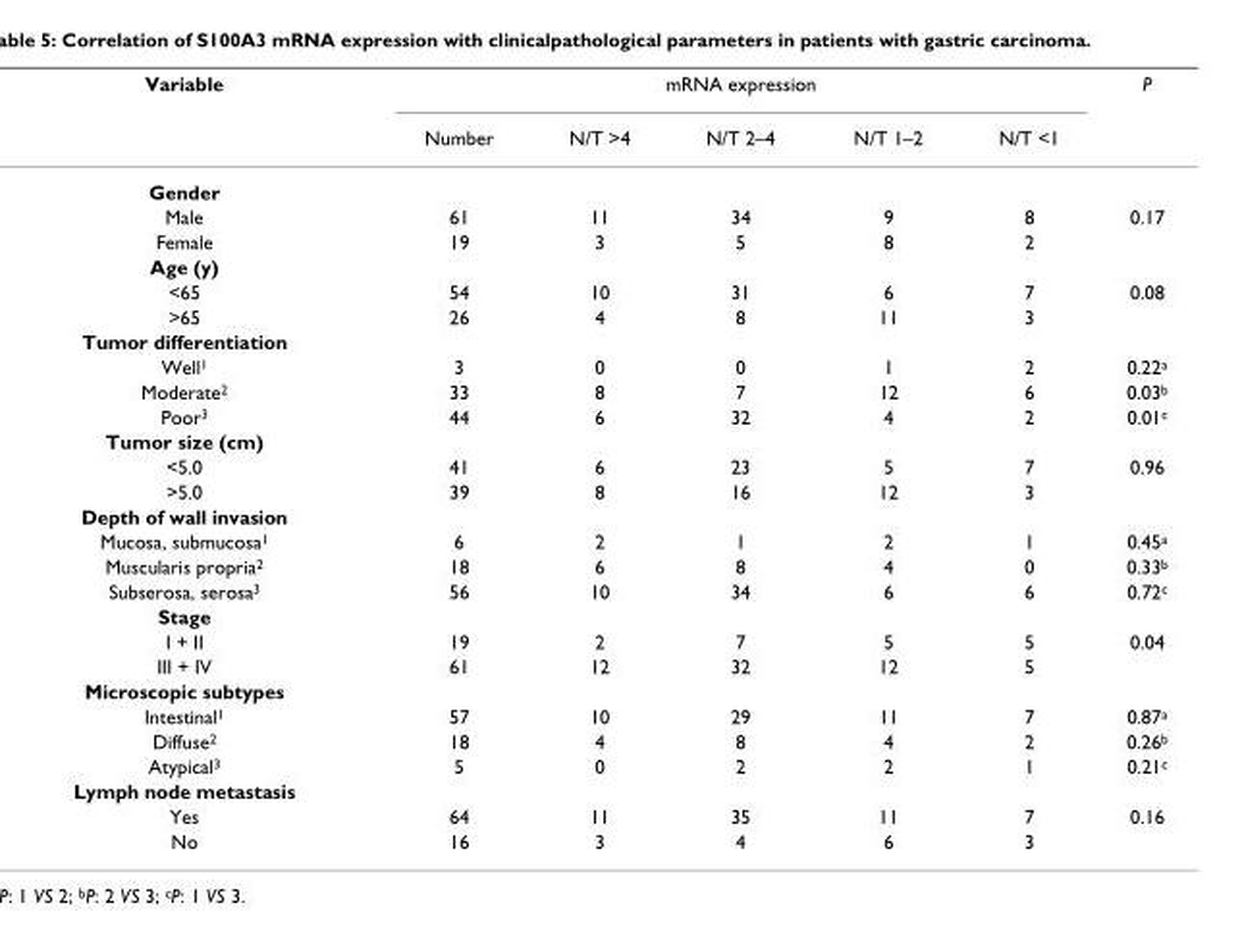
<table><thead><tr><td rowspan="2">Variable</td><td colspan="5">mRNA expression</td><td rowspan="2">P</td></tr><tr><td>Number</td><td>N/T &gt;4</td><td>N/T 2–4</td><td>N/T 1–2</td><td>N/T &lt;1</td></tr></thead><tbody><tr><td colspan="7">Gender</td></tr><tr><td>Male</td><td>61</td><td>11</td><td>34</td><td>9</td><td>8</td><td>0.17</td></tr><tr><td>Female</td><td>19</td><td>3</td><td>5</td><td>8</td><td>2</td><td></td></tr><tr><td colspan="7">Age (y)</td></tr><tr><td>&lt;65</td><td>54</td><td>10</td><td>31</td><td>6</td><td>7</td><td>0.08</td></tr><tr><td>&gt;65</td><td>26</td><td>4</td><td>8</td><td>11</td><td>3</td><td></td></tr><tr><td colspan="7">Tumor differentiation</td></tr><tr><td>Well<sup>1</sup></td><td>3</td><td>0</td><td>0</td><td>1</td><td>2</td><td>0.22<sup>a</sup></td></tr><tr><td>Moderate<sup>2</sup></td><td>33</td><td>8</td><td>7</td><td>12</td><td>6</td><td>0.03<sup>b</sup></td></tr><tr><td>Poor<sup>3</sup></td><td>44</td><td>6</td><td>32</td><td>4</td><td>2</td><td>0.01<sup>c</sup></td></tr><tr><td colspan="7">Tumor size (cm)</td></tr><tr><td>&lt;5.0</td><td>41</td><td>6</td><td>23</td><td>5</td><td>7</td><td>0.96</td></tr><tr><td>&gt;5.0</td><td>39</td><td>8</td><td>16</td><td>12</td><td>3</td><td></td></tr><tr><td colspan="7">Depth of wall invasion</td></tr><tr><td>Mucosa, submucosa<sup>1</sup></td><td>6</td><td>2</td><td>1</td><td>2</td><td>1</td><td>0.45<sup>a</sup></td></tr><tr><td>Muscularis propria<sup>2</sup></td><td>18</td><td>6</td><td>8</td><td>4</td><td>0</td><td>0.33<sup>b</sup></td></tr><tr><td>Subserosa, serosa<sup>3</sup></td><td>56</td><td>10</td><td>34</td><td>6</td><td>6</td><td>0.72<sup>c</sup></td></tr><tr><td colspan="7">Stage</td></tr><tr><td>I + II</td><td>19</td><td>2</td><td>7</td><td>5</td><td>5</td><td>0.04</td></tr><tr><td>III + IV</td><td>61</td><td>12</td><td>32</td><td>12</td><td>5</td><td></td></tr><tr><td colspan="7">Microscopic subtypes</td></tr><tr><td>Intestinal<sup>1</sup></td><td>57</td><td>10</td><td>29</td><td>11</td><td>7</td><td>0.87<sup>a</sup></td></tr><tr><td>Diffuse<sup>2</sup></td><td>18</td><td>4</td><td>8</td><td>4</td><td>2</td><td>0.26<sup>b</sup></td></tr><tr><td>Atypical<sup>3</sup></td><td>5</td><td>0</td><td>2</td><td>2</td><td>1</td><td>0.21<sup>c</sup></td></tr><tr><td colspan="7">Lymph node metastasis</td></tr><tr><td>Yes</td><td>64</td><td>11</td><td>35</td><td>11</td><td>7</td><td>0.16</td></tr><tr><td>No</td><td>16</td><td>3</td><td>4</td><td>6</td><td>3</td><td></td></tr></tbody></table>